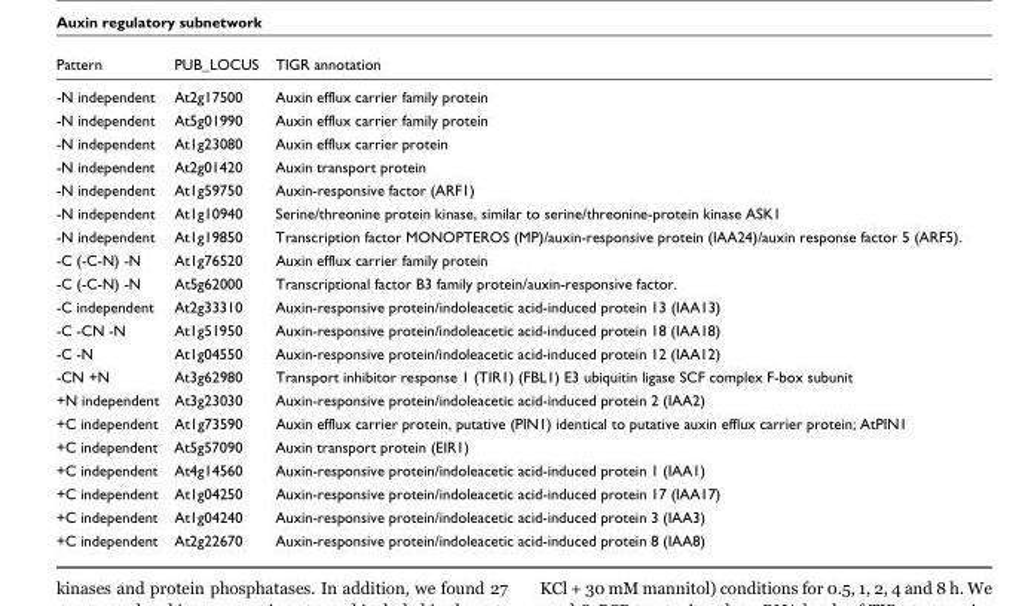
<table><thead><tr><td>Pattern</td><td>PUB_LOCUS</td><td>TIGR annotation</td></tr></thead><tbody><tr><td>-N independent</td><td>At2g17500</td><td>Auxin efflux carrier family protein</td></tr><tr><td>-N independent</td><td>At5g01990</td><td>Auxin efflux carrier family protein</td></tr><tr><td>-N independent</td><td>At1g23080</td><td>Auxin efflux carrier protein</td></tr><tr><td>-N independent</td><td>At2g01420</td><td>Auxin transport protein</td></tr><tr><td>-N independent</td><td>At1g59750</td><td>Auxin-responsive factor (ARF1)</td></tr><tr><td>-N independent</td><td>At1g10940</td><td>Serine/threonine protein kinase, similar to serine/threonine-protein kinase ASK1</td></tr><tr><td>-N independent</td><td>At1g19850</td><td>Transcription factor MONOPTEROS (MP)/auxin-responsive protein (IAA24)/auxin response factor 5 (ARF5).</td></tr><tr><td>-C (-C-N) -N</td><td>At1g76520</td><td>Auxin efflux carrier family protein</td></tr><tr><td>-C (-C-N) -N</td><td>At5g62000</td><td>Transcriptional factor B3 family protein/auxin-responsive factor.</td></tr><tr><td>-C independent</td><td>At2g33310</td><td>Auxin-responsive protein/indoleacetic acid-induced protein 13 (IAA13)</td></tr><tr><td>-C -CN -N</td><td>At1g51950</td><td>Auxin-responsive protein/indoleacetic acid-induced protein 18 (IAA18)</td></tr><tr><td>-C -N</td><td>At1g04550</td><td>Auxin-responsive protein/indoleacetic acid-induced protein 12 (IAA12)</td></tr><tr><td>-CN +N</td><td>At3g62980</td><td>Transport inhibitor response 1 (TIR1) (FBL1) E3 ubiquitin ligase SCF complex F-box subunit</td></tr><tr><td>+N independent</td><td>At3g23030</td><td>Auxin-responsive protein/indoleacetic acid-induced protein 2 (IAA2)</td></tr><tr><td>+C independent</td><td>At1g73590</td><td>Auxin efflux carrier protein, putative (PIN1) identical to putative auxin efflux carrier protein; AtPIN1</td></tr><tr><td>+C independent</td><td>At5g57090</td><td>Auxin transport protein (EIR1)</td></tr><tr><td>+C independent</td><td>At4g14560</td><td>Auxin-responsive protein/indoleacetic acid-induced protein 1 (IAA1)</td></tr><tr><td>+C independent</td><td>At1g04250</td><td>Auxin-responsive protein/indoleacetic acid-induced protein 17 (IAA17)</td></tr><tr><td>+C independent</td><td>At1g04240</td><td>Auxin-responsive protein/indoleacetic acid-induced protein 3 (IAA3)</td></tr><tr><td>+C independent</td><td>At2g22670</td><td>Auxin-responsive protein/indoleacetic acid-induced protein 8 (IAA8)</td></tr></tbody></table>